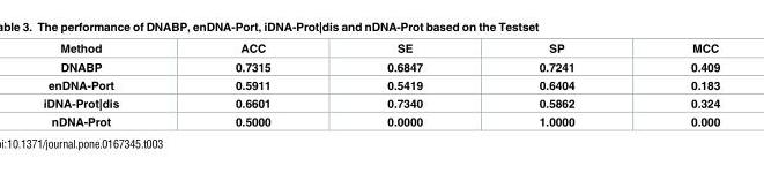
<table><thead><tr><td>Method</td><td>ACC</td><td>SE</td><td>SP</td><td>MCC</td></tr></thead><tbody><tr><td>DNABP</td><td>0.7315</td><td>0.6847</td><td>0.7241</td><td>0.409</td></tr><tr><td>enDNA-Port</td><td>0.5911</td><td>0.5419</td><td>0.6404</td><td>0.183</td></tr><tr><td>iDNA-Prot|dis</td><td>0.6601</td><td>0.7340</td><td>0.5862</td><td>0.324</td></tr><tr><td>nDNA-Prot</td><td>0.5000</td><td>0.0000</td><td>1.0000</td><td>0.000</td></tr></tbody></table>